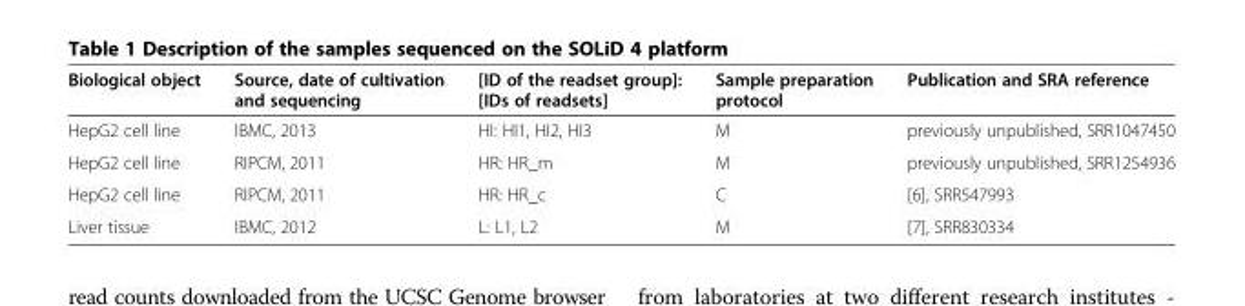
<table><thead><tr><td>Biological object</td><td>Source, date of cultivation and sequencing</td><td>[ID of the readset group]: [IDs of readsets]</td><td>Sample preparation protocol</td><td>Publication and SRA reference</td></tr></thead><tbody><tr><td>HepG2 cell line</td><td>IBMC, 2013</td><td>HI: HI1, HI2, HI3</td><td>M</td><td>previously unpublished, SRR1047450</td></tr><tr><td>HepG2 cell line</td><td>RIPCM, 2011</td><td>HR: HR_m</td><td>M</td><td>previously unpublished, SRR1254936</td></tr><tr><td>HepG2 cell line</td><td>RIPCM, 2011</td><td>HR: HR_c</td><td>C</td><td>[6], SRR547993</td></tr><tr><td>Liver tissue</td><td>IBMC, 2012</td><td>L: L1, L2</td><td>M</td><td>[7], SRR830334</td></tr></tbody></table>